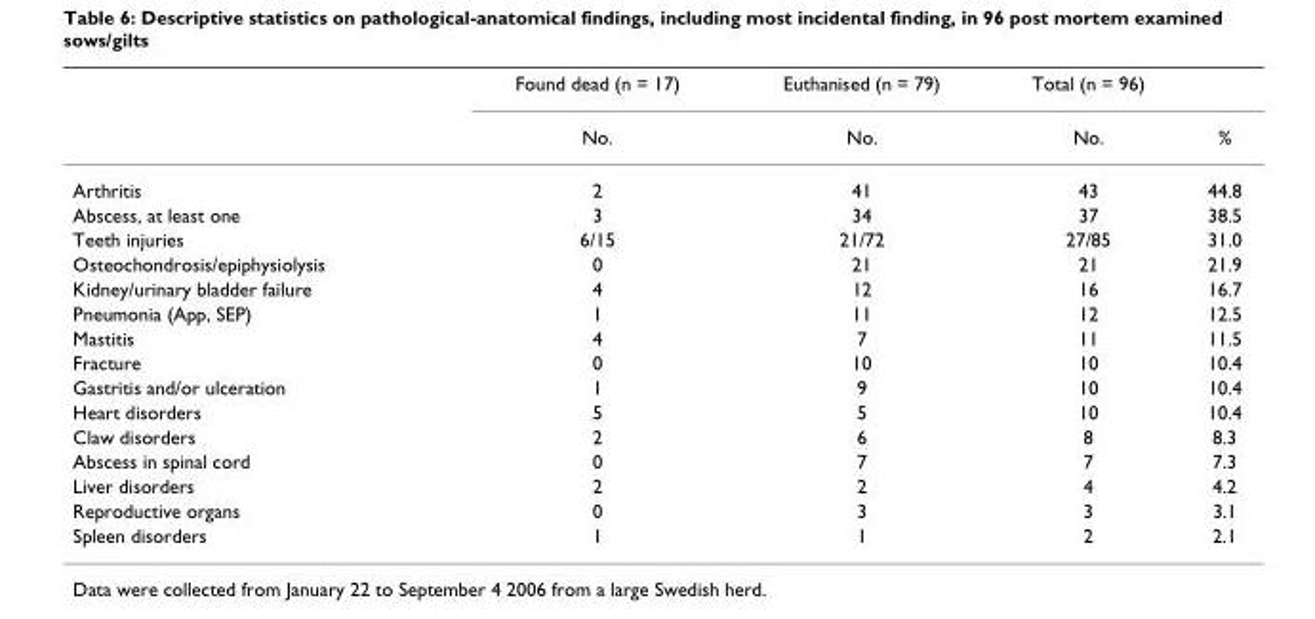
<table><thead><tr><td rowspan="2"></td><td rowspan="2">Found dead (n = 17) No.</td><td rowspan="2">Euthanised (n = 79) No.</td><td rowspan="2">Total (n = 96) No.</td><td rowspan="2">%</td></tr><tr></tr></thead><tbody><tr><td>Arthritis</td><td>2</td><td>41</td><td>43</td><td>44.8</td></tr><tr><td>Abscess, at least one</td><td>3</td><td>34</td><td>37</td><td>38.5</td></tr><tr><td>Teeth injuries</td><td>6/15</td><td>21/72</td><td>27/85</td><td>31.0</td></tr><tr><td>Osteochondrosis/epiphysiolysis</td><td>0</td><td>21</td><td>21</td><td>21.9</td></tr><tr><td>Kidney/urinary bladder failure</td><td>4</td><td>12</td><td>16</td><td>16.7</td></tr><tr><td>Pneumonia (App, SEP)</td><td>1</td><td>11</td><td>12</td><td>12.5</td></tr><tr><td>Mastitis</td><td>4</td><td>7</td><td>11</td><td>11.5</td></tr><tr><td>Fracture</td><td>0</td><td>10</td><td>10</td><td>10.4</td></tr><tr><td>Gastritis and/or ulceration</td><td>1</td><td>9</td><td>10</td><td>10.4</td></tr><tr><td>Heart disorders</td><td>5</td><td>5</td><td>10</td><td>10.4</td></tr><tr><td>Claw disorders</td><td>2</td><td>6</td><td>8</td><td>8.3</td></tr><tr><td>Abscess in spinal cord</td><td>0</td><td>7</td><td>7</td><td>7.3</td></tr><tr><td>Liver disorders</td><td>2</td><td>2</td><td>4</td><td>4.2</td></tr><tr><td>Reproductive organs</td><td>0</td><td>3</td><td>3</td><td>3.1</td></tr><tr><td>Spleen disorders</td><td>1</td><td>1</td><td>2</td><td>2.1</td></tr></tbody></table>